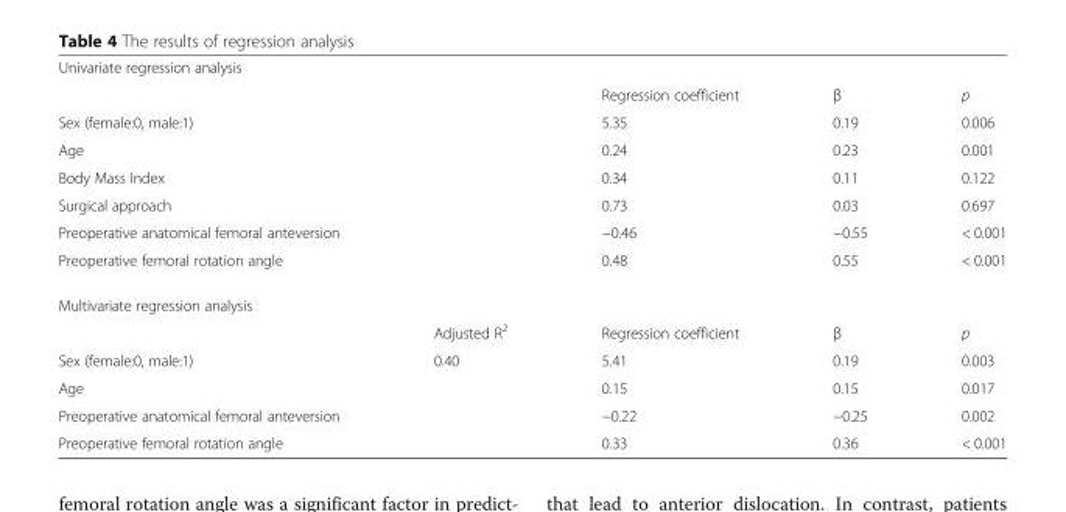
<table><tbody><tr><td colspan="5">Univariate regression analysis</td></tr><tr><td colspan="2"></td><td>Regression coefficient</td><td>β</td><td>p</td></tr><tr><td colspan="2">Sex (female:0, male:1)</td><td>5.35</td><td>0.19</td><td>0.006</td></tr><tr><td colspan="2">Age</td><td>0.24</td><td>0.23</td><td>0.001</td></tr><tr><td colspan="2">Body Mass Index</td><td>0.34</td><td>0.11</td><td>0.122</td></tr><tr><td colspan="2">Surgical approach</td><td>0.73</td><td>0.03</td><td>0.697</td></tr><tr><td colspan="2">Preoperative anatomical femoral anteversion</td><td>−0.46</td><td>−0.55</td><td>&lt; 0.001</td></tr><tr><td colspan="2">Preoperative femoral rotation angle</td><td>0.48</td><td>0.55</td><td>&lt; 0.001</td></tr><tr><td colspan="5">Multivariate regression analysis</td></tr><tr><td></td><td>Adjusted R<sup>2</sup></td><td>Regression coefficient</td><td>β</td><td>p</td></tr><tr><td>Sex (female:0, male:1)</td><td rowspan="4">0.40</td><td>5.41</td><td>0.19</td><td>0.003</td></tr><tr><td>Age</td><td>0.15</td><td>0.15</td><td>0.017</td></tr><tr><td>Preoperative anatomical femoral anteversion</td><td>−0.22</td><td>−0.25</td><td>0.002</td></tr><tr><td>Preoperative femoral rotation angle</td><td>0.33</td><td>0.36</td><td>&lt; 0.001</td></tr></tbody></table>